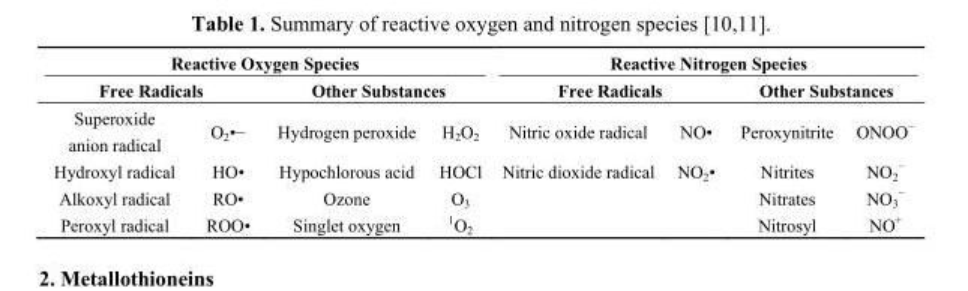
<table><thead><tr><td colspan="4">Reactive Oxygen Species</td><td colspan="4">Reactive Nitrogen Species</td></tr><tr><td colspan="2">Free Radicals</td><td colspan="2">Other Substances</td><td colspan="2">Free Radicals</td><td colspan="2">Other Substances</td></tr><tr><td>Superoxide anion radical</td><td>O<sub>2</sub>•−</td><td>Hydrogen peroxide</td><td>H<sub>2</sub>O<sub>2</sub></td><td>Nitric oxide radical</td><td>NO•</td><td>Peroxynitrite</td><td>ONOO<sup>−</sup></td></tr></thead><tbody><tr><td>Hydroxyl radical</td><td>HO•</td><td>Hypochlorous acid</td><td>HOCl</td><td>Nitric dioxide radical</td><td>NO<sub>2</sub>•</td><td>Nitrites</td><td>NO<sub>2</sub> <sup>−</sup></td></tr><tr><td>Alkoxyl radical</td><td>RO•</td><td>Ozone</td><td>O<sub>3</sub></td><td></td><td></td><td>Nitrates</td><td>NO<sub>3</sub> <sup>−</sup></td></tr><tr><td>Peroxyl radical</td><td>ROO•</td><td>Singlet oxygen</td><td><sup>1</sup>O<sub>2</sub></td><td></td><td></td><td>Nitrosyl</td><td>NO<sup>+</sup></td></tr></tbody></table>